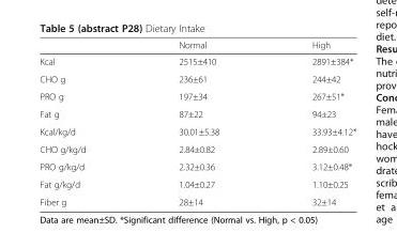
<table><thead><tr><td></td><td>Normal</td><td>High</td></tr></thead><tbody><tr><td>Kcal</td><td>2515±410</td><td>2891±384*</td></tr><tr><td>CHO g</td><td>236±61</td><td>244±42</td></tr><tr><td>PRO g</td><td>197±34</td><td>267±51*</td></tr><tr><td>Fat g</td><td>87±22</td><td>94±23</td></tr><tr><td>Kcal/kg/d</td><td>30.01±5.38</td><td>33.93±4.12*</td></tr><tr><td>CHO g/kg/d</td><td>2.84±0.82</td><td>2.89±0.60</td></tr><tr><td>PRO g/kg/d</td><td>2.32±0.36</td><td>3.12±0.48*</td></tr><tr><td>Fat g/kg/d</td><td>1.04±0.27</td><td>1.10±0.25</td></tr><tr><td>Fiber g</td><td>28±14</td><td>32±14</td></tr></tbody></table>